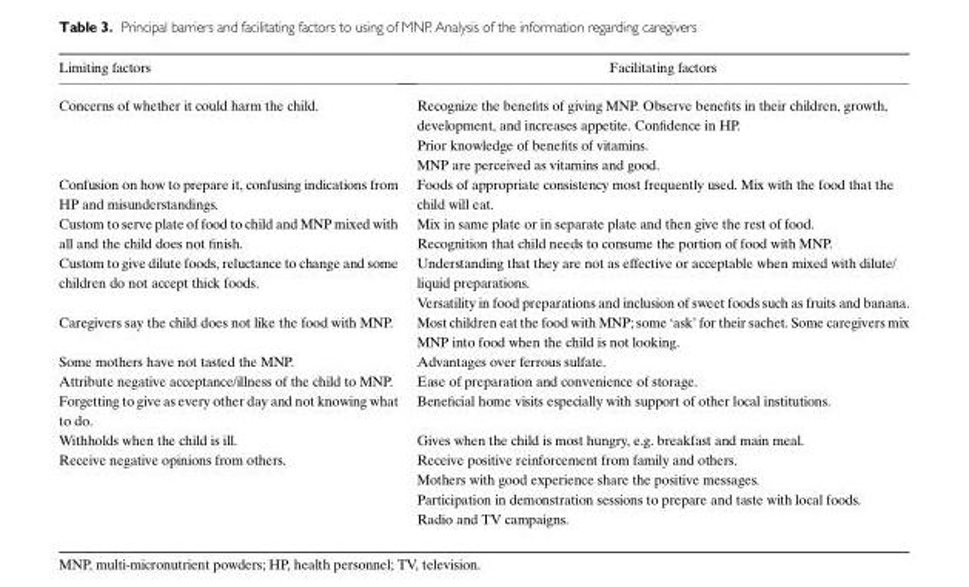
<table><thead><tr><td>Limiting factors</td><td>Facilitating factors</td></tr></thead><tbody><tr><td rowspan="3">Concerns of whether it could harm the child.</td><td>Recognize the benefits of giving MNP. Observe benefits in their children, growth, development, and increases appetite. Confidence in HP.</td></tr><tr><td>Prior knowledge of benefits of vitamins.</td></tr><tr><td>MNP are perceived as vitamins and good.</td></tr><tr><td>Confusion on how to prepare it, confusing indications from HP and misunderstandings.</td><td>Foods of appropriate consistency most frequently used. Mix with the food that the child will eat.</td></tr><tr><td rowspan="2">Custom to serve plate of food to child and MNP mixed with all and the child does not finish.</td><td>Mix in same plate or in separate plate and then give the rest of food.</td></tr><tr><td>Recognition that child needs to consume the portion of food with MNP.</td></tr><tr><td rowspan="2">Custom to give dilute foods, reluctance to change and some children do not accept thick foods.</td><td>Understanding that they are not as effective or acceptable when mixed with dilute/ liquid preparations.</td></tr><tr><td>Versatility in food preparations and inclusion of sweet foods such as fruits and banana.</td></tr><tr><td>Caregivers say the child does not like the food with MNP.</td><td>Most children eat the food with MNP; some ‘ask’ for their sachet. Some caregivers mix MNP into food when the child is not looking.</td></tr><tr><td>Some mothers have not tasted the MNP.</td><td>Advantages over ferrous sulfate.</td></tr><tr><td>Attribute negative acceptance/illness of the child to MNP.</td><td>Ease of preparation and convenience of storage.</td></tr><tr><td>Forgetting to give as every other day and not knowing what to do.</td><td>Beneficial home visits especially with support of other local institutions.</td></tr><tr><td>Withholds when the child is ill.</td><td>Gives when the child is most hungry, e.g. breakfast and main meal.</td></tr><tr><td rowspan="4">Receive negative opinions from others.</td><td>Receive positive reinforcement from family and others.</td></tr><tr><td>Mothers with good experience share the positive messages.</td></tr><tr><td>Participation in demonstration sessions to prepare and taste with local foods.</td></tr><tr><td>Radio and TV campaigns.</td></tr></tbody></table>